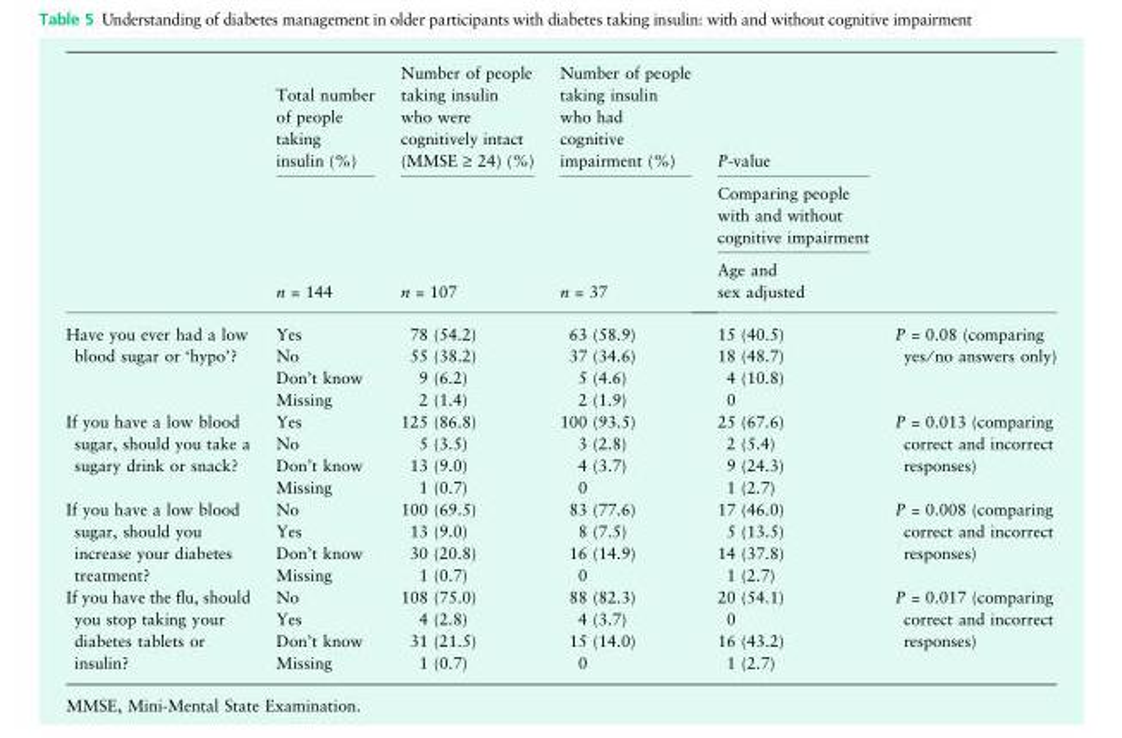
<table><thead><tr><td rowspan="3"></td><td rowspan="3">Total number of people taking insulin (%) n = 144</td><td rowspan="3">Number of people taking insulin who were cognitively intact (MMSE ‡ 24) (%) n = 107</td><td rowspan="3">Number of people taking insulin who had cognitive impairment (%) n = 37</td><td rowspan="3">P-value Comparing people with and without cognitive impairment Age and sex adjusted</td><td rowspan="3"></td></tr><tr></tr><tr></tr></thead><tbody><tr><td rowspan="4">Have you ever had a low blood sugar or ‘hypo’?</td><td>Yes</td><td>78 (54.2)</td><td>63 (58.9)</td><td>15 (40.5)</td><td rowspan="4">P = 0.08 (comparing yes ⁄ no answers only)</td></tr><tr><td>No</td><td>55 (38.2)</td><td>37 (34.6)</td><td>18 (48.7)</td></tr><tr><td>Don’t know</td><td>9 (6.2)</td><td>5 (4.6)</td><td>4 (10.8)</td></tr><tr><td>Missing</td><td>2 (1.4)</td><td>2 (1.9)</td><td>0</td></tr><tr><td rowspan="4">If you have a low blood sugar, should you take a sugary drink or snack?</td><td>Yes</td><td>125 (86.8)</td><td>100 (93.5)</td><td>25 (67.6)</td><td rowspan="4">P = 0.013 (comparing correct and incorrect responses)</td></tr><tr><td>No</td><td>5 (3.5)</td><td>3 (2.8)</td><td>2 (5.4)</td></tr><tr><td>Don’t know</td><td>13 (9.0)</td><td>4 (3.7)</td><td>9 (24.3)</td></tr><tr><td>Missing</td><td>1 (0.7)</td><td>0</td><td>1 (2.7)</td></tr><tr><td rowspan="4">If you have a low blood sugar, should you increase your diabetes treatment?</td><td>No</td><td>100 (69.5)</td><td>83 (77.6)</td><td>17 (46.0)</td><td rowspan="4">P = 0.008 (comparing correct and incorrect responses)</td></tr><tr><td>Yes</td><td>13 (9.0)</td><td>8 (7.5)</td><td>5 (13.5)</td></tr><tr><td>Don’t know</td><td>30 (20.8)</td><td>16 (14.9)</td><td>14 (37.8)</td></tr><tr><td>Missing</td><td>1 (0.7)</td><td>0</td><td>1 (2.7)</td></tr><tr><td rowspan="4">If you have the flu, should you stop taking your diabetes tablets or insulin?</td><td>No</td><td>108 (75.0)</td><td>88 (82.3)</td><td>20 (54.1)</td><td rowspan="4">P = 0.017 (comparing correct and incorrect responses)</td></tr><tr><td>Yes</td><td>4 (2.8)</td><td>4 (3.7)</td><td>0</td></tr><tr><td>Don’t know</td><td>31 (21.5)</td><td>15 (14.0)</td><td>16 (43.2)</td></tr><tr><td>Missing</td><td>1 (0.7)</td><td>0</td><td>1 (2.7)</td></tr></tbody></table>